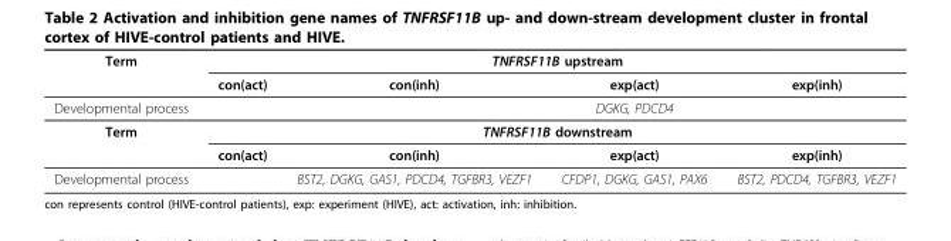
<table><thead><tr><td rowspan="2">Term</td><td colspan="4">TNFRSF11B upstream</td></tr><tr><td>con(act)</td><td>con(inh)</td><td>exp(act)</td><td>exp(inh)</td></tr></thead><tbody><tr><td>Developmental process</td><td></td><td></td><td>DGKG, PDCD4</td><td></td></tr><tr><td rowspan="2">Term</td><td colspan="4">TNFRSF11B downstream</td></tr><tr><td>con(act)</td><td>con(inh)</td><td>exp(act)</td><td>exp(inh)</td></tr><tr><td>Developmental process</td><td></td><td>BST2, DGKG, GAS1, PDCD4, TGFBR3, VEZF1</td><td>CFDP1, DGKG, GAS1, PAX6</td><td>BST2, PDCD4, TGFBR3, VEZF1</td></tr></tbody></table>